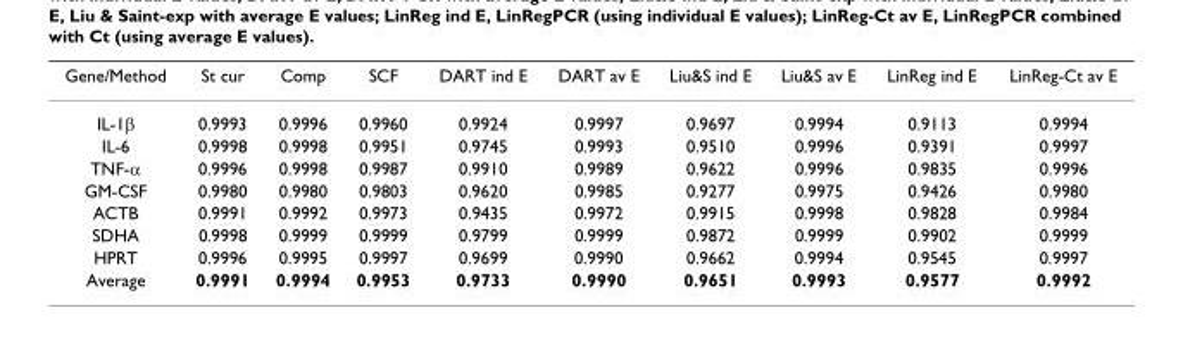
<table><thead><tr><td>Gene/Method</td><td>St cur</td><td>Comp</td><td>SCF</td><td>DART ind E</td><td>DART av E</td><td>Liu&amp;S ind E</td><td>Liu&amp;S av E</td><td>LinReg ind E</td><td>LinReg-Ct av E</td></tr></thead><tbody><tr><td>IL-1β</td><td>0.9993</td><td>0.9996</td><td>0.9960</td><td>0.9924</td><td>0.9997</td><td>0.9697</td><td>0.9994</td><td>0.9113</td><td>0.9994</td></tr><tr><td>IL-6</td><td>0.9998</td><td>0.9998</td><td>0.9951</td><td>0.9745</td><td>0.9993</td><td>0.9510</td><td>0.9996</td><td>0.9391</td><td>0.9997</td></tr><tr><td>TNF-α</td><td>0.9996</td><td>0.9998</td><td>0.9987</td><td>0.9910</td><td>0.9989</td><td>0.9622</td><td>0.9996</td><td>0.9835</td><td>0.9996</td></tr><tr><td>GM-CSF</td><td>0.9980</td><td>0.9980</td><td>0.9803</td><td>0.9620</td><td>0.9985</td><td>0.9277</td><td>0.9975</td><td>0.9426</td><td>0.9980</td></tr><tr><td>ACTB</td><td>0.9991</td><td>0.9992</td><td>0.9973</td><td>0.9435</td><td>0.9972</td><td>0.9915</td><td>0.9998</td><td>0.9828</td><td>0.9984</td></tr><tr><td>SDHA</td><td>0.9998</td><td>0.9999</td><td>0.9999</td><td>0.9799</td><td>0.9999</td><td>0.9872</td><td>0.9999</td><td>0.9902</td><td>0.9999</td></tr><tr><td>HPRT</td><td>0.9996</td><td>0.9995</td><td>0.9997</td><td>0.9699</td><td>0.9990</td><td>0.9662</td><td>0.9994</td><td>0.9545</td><td>0.9997</td></tr><tr><td>Average</td><td>0.9991</td><td>0.9994</td><td>0.9953</td><td>0.9733</td><td>0.9990</td><td>0.9651</td><td>0.9993</td><td>0.9577</td><td>0.9992</td></tr></tbody></table>